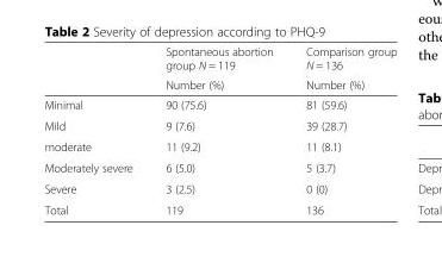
<table><thead><tr><td rowspan="2"></td><td rowspan="2">Spontaneous abortion group N = 119 Number (%)</td><td rowspan="2">Comparison group N = 136 Number (%)</td></tr><tr></tr></thead><tbody><tr><td>Minimal</td><td>90 (75.6)</td><td>81 (59.6)</td></tr><tr><td>Mild</td><td>9 (7.6)</td><td>39 (28.7)</td></tr><tr><td>moderate</td><td>11 (9.2)</td><td>11 (8.1)</td></tr><tr><td>Moderately severe</td><td>6 (5.0)</td><td>5 (3.7)</td></tr><tr><td>Severe</td><td>3 (2.5)</td><td>0 (0)</td></tr><tr><td>Total</td><td>119</td><td>136</td></tr></tbody></table>